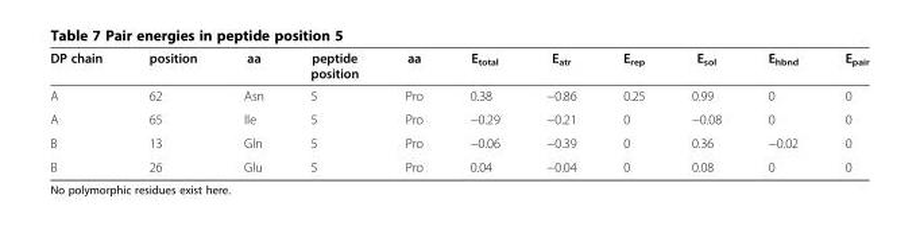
<table><thead><tr><td>DP chain</td><td>position</td><td>aa</td><td>peptide position</td><td>aa</td><td>E<sub>total</sub></td><td>E<sub>atr</sub></td><td>E<sub>rep</sub></td><td>E<sub>sol</sub></td><td>E<sub>hbnd</sub></td><td>E<sub>pair</sub></td></tr></thead><tbody><tr><td>A</td><td>62</td><td>Asn</td><td>5</td><td>Pro</td><td>0.38</td><td>−0.86</td><td>0.25</td><td>0.99</td><td>0</td><td>0</td></tr><tr><td>A</td><td>65</td><td>Ile</td><td>5</td><td>Pro</td><td>−0.29</td><td>−0.21</td><td>0</td><td>−0.08</td><td>0</td><td>0</td></tr><tr><td>B</td><td>13</td><td>Gln</td><td>5</td><td>Pro</td><td>−0.06</td><td>−0.39</td><td>0</td><td>0.36</td><td>−0.02</td><td>0</td></tr><tr><td>B</td><td>26</td><td>Glu</td><td>5</td><td>Pro</td><td>0.04</td><td>−0.04</td><td>0</td><td>0.08</td><td>0</td><td>0</td></tr></tbody></table>